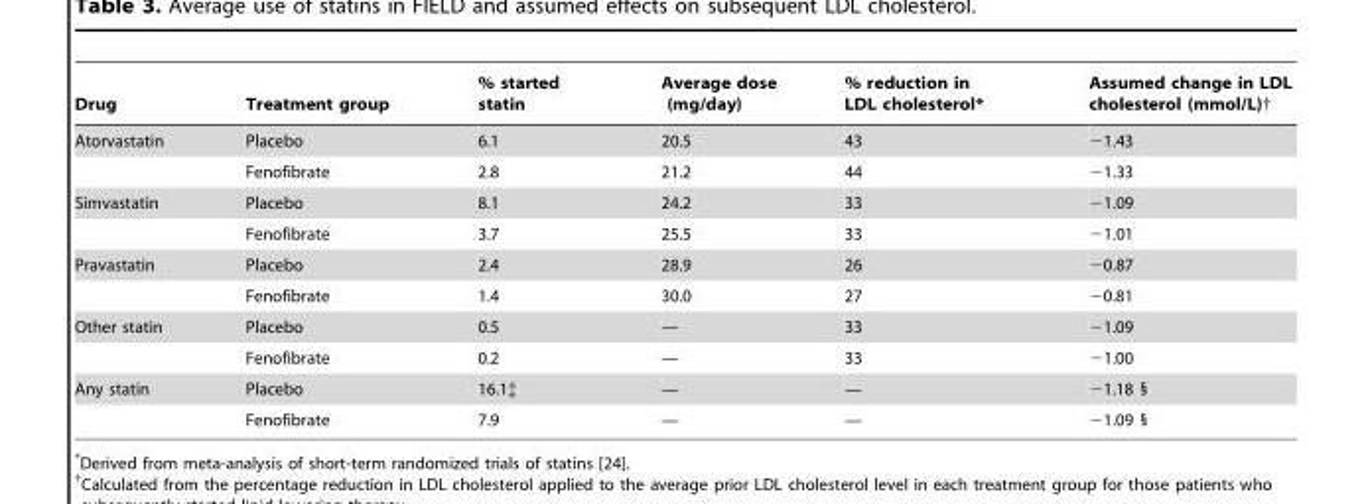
<table><thead><tr><td>Drug</td><td>Treatment group</td><td>% started statin</td><td>Average dose (mg/day)</td><td>% reduction in LDL cholesterol*</td><td>Assumed change in LDL cholesterol (mmol/L)†</td></tr></thead><tbody><tr><td rowspan="2">Atorvastatin</td><td>Placebo</td><td>6.1</td><td>20.5</td><td>43</td><td>−1.43</td></tr><tr><td>Fenofibrate</td><td>2.8</td><td>21.2</td><td>44</td><td>−1.33</td></tr><tr><td rowspan="2">Simvastatin</td><td>Placebo</td><td>8.1</td><td>24.2</td><td>33</td><td>−1.09</td></tr><tr><td>Fenofibrate</td><td>3.7</td><td>25.5</td><td>33</td><td>−1.01</td></tr><tr><td rowspan="2">Pravastatin</td><td>Placebo</td><td>2.4</td><td>28.9</td><td>26</td><td>−0.87</td></tr><tr><td>Fenofibrate</td><td>1.4</td><td>30.0</td><td>27</td><td>−0.81</td></tr><tr><td rowspan="2">Other statin</td><td>Placebo</td><td>0.5</td><td>—</td><td>33</td><td>−1.09</td></tr><tr><td>Fenofibrate</td><td>0.2</td><td>—</td><td>33</td><td>−1.00</td></tr><tr><td rowspan="2">Any statin</td><td>Placebo</td><td>16.1‡</td><td>—</td><td>—</td><td>−1.18 §</td></tr><tr><td>Fenofibrate</td><td>7.9</td><td>—</td><td>—</td><td>−1.09 §</td></tr></tbody></table>